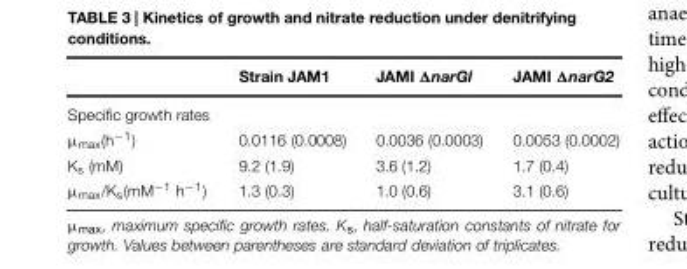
<table><thead><tr><td></td><td>Strain JAM1</td><td>JAMI ΔnarGl</td><td>JAMI ΔnarG2</td></tr></thead><tbody><tr><td colspan="4">Specific growth rates</td></tr><tr><td>μ<sub>max</sub>(h<sup>−1</sup>)</td><td>0.0116 (0.0008)</td><td>0.0036 (0.0003)</td><td>0.0053 (0.0002)</td></tr><tr><td>K<sub>s</sub> (mM)</td><td>9.2 (1.9)</td><td>3.6 (1.2)</td><td>1.7 (0.4)</td></tr><tr><td>μ<sub>max</sub>/K<sub>s</sub>(mM<sup>−1</sup> h<sup>−1</sup>)</td><td>1.3 (0.3)</td><td>1.0 (0.6)</td><td>3.1 (0.6)</td></tr></tbody></table>